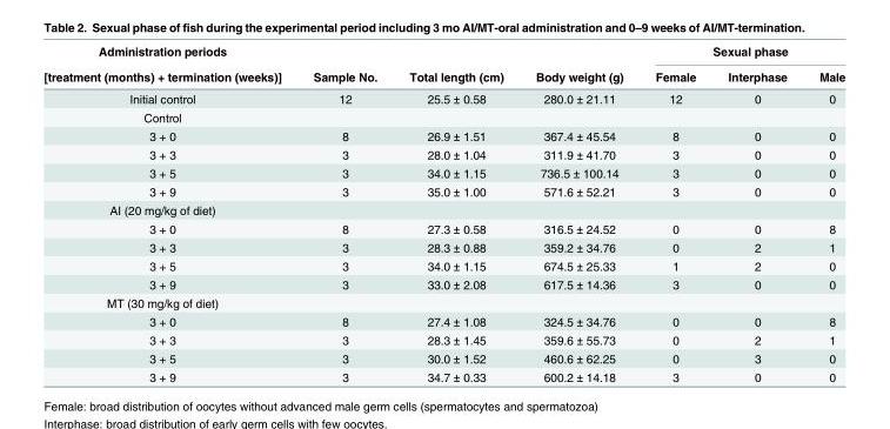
<table><thead><tr><td rowspan="2">Administration periods [treatment (months) + termination (weeks)]</td><td rowspan="2">Sample No.</td><td rowspan="2">Total length (cm)</td><td rowspan="2">Body weight (g)</td><td colspan="3">Sexual phase</td></tr><tr><td>Female</td><td>Interphase</td><td>Male</td></tr></thead><tbody><tr><td>Initial control</td><td>12</td><td>25.5 ± 0.58</td><td>280.0 ± 21.11</td><td>12</td><td>0</td><td>0</td></tr><tr><td colspan="7">Control</td></tr><tr><td>3 + 0</td><td>8</td><td>26.9 ± 1.51</td><td>367.4 ± 45.54</td><td>8</td><td>0</td><td>0</td></tr><tr><td>3 + 3</td><td>3</td><td>28.0 ± 1.04</td><td>311.9 ± 41.70</td><td>3</td><td>0</td><td>0</td></tr><tr><td>3 + 5</td><td>3</td><td>34.0 ± 1.15</td><td>736.5 ± 100.14</td><td>3</td><td>0</td><td>0</td></tr><tr><td>3 + 9</td><td>3</td><td>35.0 ± 1.00</td><td>571.6 ± 52.21</td><td>3</td><td>0</td><td>0</td></tr><tr><td colspan="7">AI (20 mg/kg of diet)</td></tr><tr><td>3 + 0</td><td>8</td><td>27.3 ± 0.58</td><td>316.5 ± 24.52</td><td>0</td><td>0</td><td>8</td></tr><tr><td>3 + 3</td><td>3</td><td>28.3 ± 0.88</td><td>359.2 ± 34.76</td><td>0</td><td>2</td><td>1</td></tr><tr><td>3 + 5</td><td>3</td><td>34.0 ± 1.15</td><td>674.5 ± 25.33</td><td>1</td><td>2</td><td>0</td></tr><tr><td>3 + 9</td><td>3</td><td>33.0 ± 2.08</td><td>617.5 ± 14.36</td><td>3</td><td>0</td><td>0</td></tr><tr><td colspan="7">MT (30 mg/kg of diet)</td></tr><tr><td>3 + 0</td><td>8</td><td>27.4 ± 1.08</td><td>324.5 ± 34.76</td><td>0</td><td>0</td><td>8</td></tr><tr><td>3 + 3</td><td>3</td><td>28.3 ± 1.45</td><td>359.6 ± 55.73</td><td>0</td><td>2</td><td>1</td></tr><tr><td>3 + 5</td><td>3</td><td>30.0 ± 1.52</td><td>460.6 ± 62.25</td><td>0</td><td>3</td><td>0</td></tr><tr><td>3 + 9</td><td>3</td><td>34.7 ± 0.33</td><td>600.2 ± 14.18</td><td>3</td><td>0</td><td>0</td></tr></tbody></table>